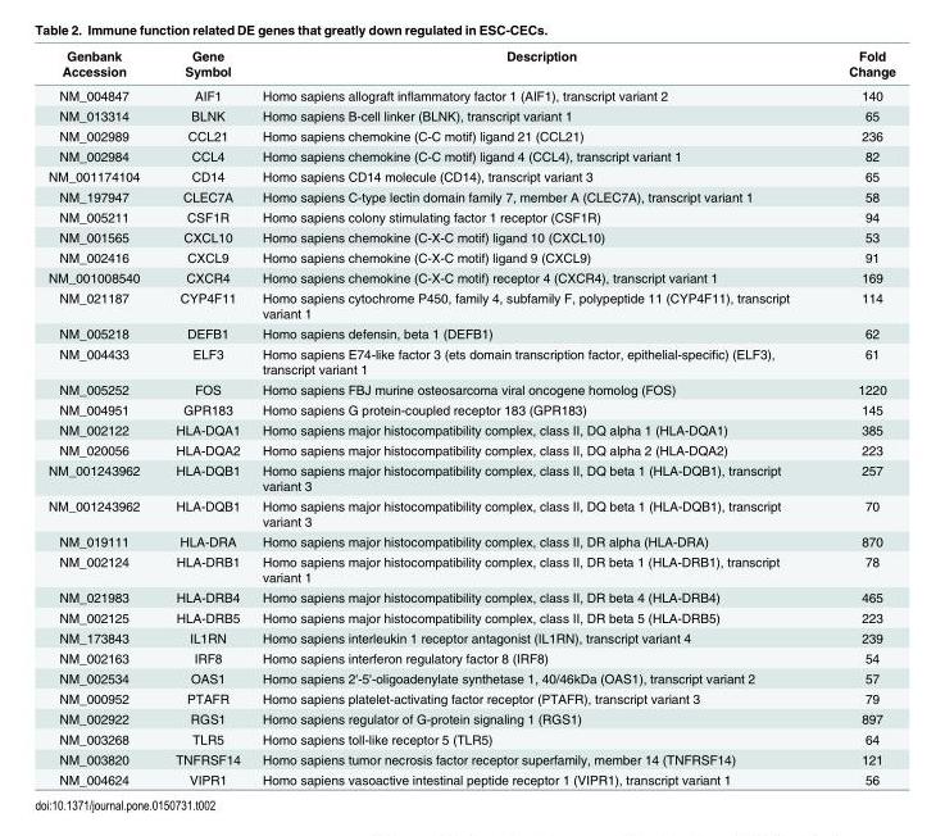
<table><thead><tr><td>Genbank Accession</td><td>Gene Symbol</td><td>Description</td><td>Fold Change</td></tr></thead><tbody><tr><td>NM_004847</td><td>AIF1</td><td>Homo sapiens allograft inflammatory factor 1 (AIF1), transcript variant 2</td><td>140</td></tr><tr><td>NM_013314</td><td>BLNK</td><td>Homo sapiens B-cell linker (BLNK), transcript variant 1</td><td>65</td></tr><tr><td>NM_002989</td><td>CCL21</td><td>Homo sapiens chemokine (C-C motif) ligand 21 (CCL21)</td><td>236</td></tr><tr><td>NM_002984</td><td>CCL4</td><td>Homo sapiens chemokine (C-C motif) ligand 4 (CCL4), transcript variant 1</td><td>82</td></tr><tr><td>NM_001174104</td><td>CD14</td><td>Homo sapiens CD14 molecule (CD14), transcript variant 3</td><td>65</td></tr><tr><td>NM_197947</td><td>CLEC7A</td><td>Homo sapiens C-type lectin domain family 7, member A (CLEC7A), transcript variant 1</td><td>58</td></tr><tr><td>NM_005211</td><td>CSF1R</td><td>Homo sapiens colony stimulating factor 1 receptor (CSF1R)</td><td>94</td></tr><tr><td>NM_001565</td><td>CXCL10</td><td>Homo sapiens chemokine (C-X-C motif) ligand 10 (CXCL10)</td><td>53</td></tr><tr><td>NM_002416</td><td>CXCL9</td><td>Homo sapiens chemokine (C-X-C motif) ligand 9 (CXCL9)</td><td>91</td></tr><tr><td>NM_001008540</td><td>CXCR4</td><td>Homo sapiens chemokine (C-X-C motif) receptor 4 (CXCR4), transcript variant 1</td><td>169</td></tr><tr><td>NM_021187</td><td>CYP4F11</td><td>Homo sapiens cytochrome P450, family 4, subfamily F, polypeptide 11 (CYP4F11), transcript variant 1</td><td>114</td></tr><tr><td>NM_005218</td><td>DEFB1</td><td>Homo sapiens defensin, beta 1 (DEFB1)</td><td>62</td></tr><tr><td>NM_004433</td><td>ELF3</td><td>Homo sapiens E74-like factor 3 (ets domain transcription factor, epithelial-specific) (ELF3), transcript variant 1</td><td>61</td></tr><tr><td>NM_005252</td><td>FOS</td><td>Homo sapiens FBJ murine osteosarcoma viral oncogene homolog (FOS)</td><td>1220</td></tr><tr><td>NM_004951</td><td>GPR183</td><td>Homo sapiens G protein-coupled receptor 183 (GPR183)</td><td>145</td></tr><tr><td>NM_002122</td><td>HLA-DQA1</td><td>Homo sapiens major histocompatibility complex, class II, DQ alpha 1 (HLA-DQA1)</td><td>385</td></tr><tr><td>NM_020056</td><td>HLA-DQA2</td><td>Homo sapiens major histocompatibility complex, class II, DQ alpha 2 (HLA-DQA2)</td><td>223</td></tr><tr><td>NM_001243962</td><td>HLA-DQB1</td><td>Homo sapiens major histocompatibility complex, class II, DQ beta 1 (HLA-DQB1), transcript variant 3</td><td>257</td></tr><tr><td>NM_001243962</td><td>HLA-DQB1</td><td>Homo sapiens major histocompatibility complex, class II, DQ beta 1 (HLA-DQB1), transcript variant 3</td><td>70</td></tr><tr><td>NM_019111</td><td>HLA-DRA</td><td>Homo sapiens major histocompatibility complex, class II, DR alpha (HLA-DRA)</td><td>870</td></tr><tr><td>NM_002124</td><td>HLA-DRB1</td><td>Homo sapiens major histocompatibility complex, class II, DR beta 1 (HLA-DRB1), transcript variant 1</td><td>78</td></tr><tr><td>NM_021983</td><td>HLA-DRB4</td><td>Homo sapiens major histocompatibility complex, class II, DR beta 4 (HLA-DRB4)</td><td>465</td></tr><tr><td>NM_002125</td><td>HLA-DRB5</td><td>Homo sapiens major histocompatibility complex, class II, DR beta 5 (HLA-DRB5)</td><td>223</td></tr><tr><td>NM_173843</td><td>IL1RN</td><td>Homo sapiens interleukin 1 receptor antagonist (IL1RN), transcript variant 4</td><td>239</td></tr><tr><td>NM_002163</td><td>IRF8</td><td>Homo sapiens interferon regulatory factor 8 (IRF8)</td><td>54</td></tr><tr><td>NM_002534</td><td>OAS1</td><td>Homo sapiens 2&#x27;-5&#x27;-oligoadenylate synthetase 1, 40/46kDa (OAS1), transcript variant 2</td><td>57</td></tr><tr><td>NM_000952</td><td>PTAFR</td><td>Homo sapiens platelet-activating factor receptor (PTAFR), transcript variant 3</td><td>79</td></tr><tr><td>NM_002922</td><td>RGS1</td><td>Homo sapiens regulator of G-protein signaling 1 (RGS1)</td><td>897</td></tr><tr><td>NM_003268</td><td>TLR5</td><td>Homo sapiens toll-like receptor 5 (TLR5)</td><td>64</td></tr><tr><td>NM_003820</td><td>TNFRSF14</td><td>Homo sapiens tumor necrosis factor receptor superfamily, member 14 (TNFRSF14)</td><td>121</td></tr><tr><td>NM_004624</td><td>VIPR1</td><td>Homo sapiens vasoactive intestinal peptide receptor 1 (VIPR1), transcript variant 1</td><td>56</td></tr></tbody></table>